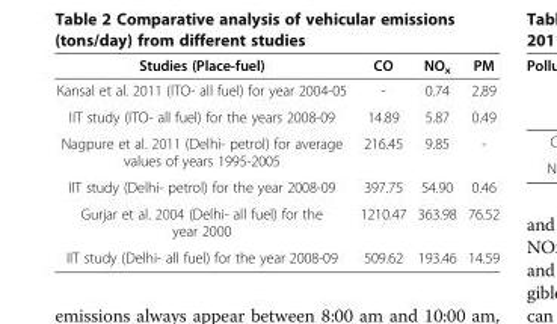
<table><thead><tr><td>Studies (Place-fuel)</td><td>CO</td><td>NO<sub>x</sub></td><td>PM</td></tr></thead><tbody><tr><td>Kansal et al. 2011 (ITO- all fuel) for year 2004-05</td><td>-</td><td>0.74</td><td>2.89</td></tr><tr><td>IIT study (ITO- all fuel) for the years 2008-09</td><td>14.89</td><td>5.87</td><td>0.49</td></tr><tr><td>Nagpure et al. 2011 (Delhi- petrol) for average values of years 1995-2005</td><td>216.45</td><td>9.85</td><td>-</td></tr><tr><td>IIT study (Delhi- petrol) for the year 2008-09</td><td>397.75</td><td>54.90</td><td>0.46</td></tr><tr><td>Gurjar et al. 2004 (Delhi- all fuel) for the year 2000</td><td>1210.47</td><td>363.98</td><td>76.52</td></tr><tr><td>IIT study (Delhi- all fuel) for the year 2008-09</td><td>509.62</td><td>193.46</td><td>14.59</td></tr></tbody></table>